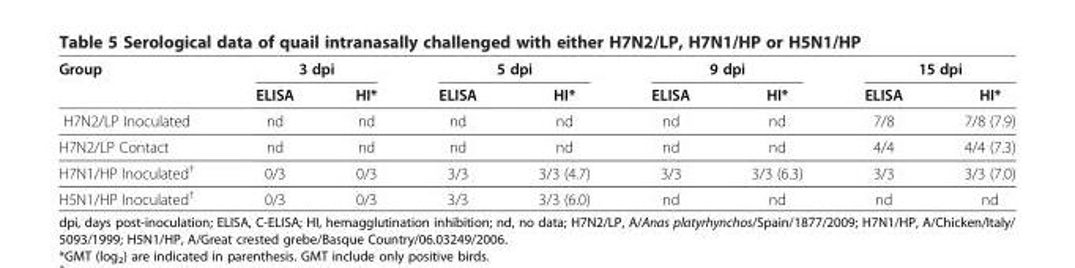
<table><thead><tr><td rowspan="2">Group</td><td colspan="2">3 dpi</td><td colspan="2">5 dpi</td><td colspan="2">9 dpi</td><td colspan="2">15 dpi</td></tr><tr><td>ELISA</td><td>HI*</td><td>ELISA</td><td>HI*</td><td>ELISA</td><td>HI*</td><td>ELISA</td><td>HI*</td></tr></thead><tbody><tr><td>H7N2/LP Inoculated</td><td>nd</td><td>nd</td><td>nd</td><td>nd</td><td>nd</td><td>nd</td><td>7/8</td><td>7/8 (7.9)</td></tr><tr><td>H7N2/LP Contact</td><td>nd</td><td>nd</td><td>nd</td><td>nd</td><td>nd</td><td>nd</td><td>4/4</td><td>4/4 (7.3)</td></tr><tr><td>H7N1/HP Inoculated<sup>†</sup></td><td>0/3</td><td>0/3</td><td>3/3</td><td>3/3 (4.7)</td><td>3/3</td><td>3/3 (6.3)</td><td>3/3</td><td>3/3 (7.0)</td></tr><tr><td>H5N1/HP Inoculated<sup>†</sup></td><td>0/3</td><td>0/3</td><td>3/3</td><td>3/3 (6.0)</td><td>nd</td><td>nd</td><td>nd</td><td>nd</td></tr></tbody></table>